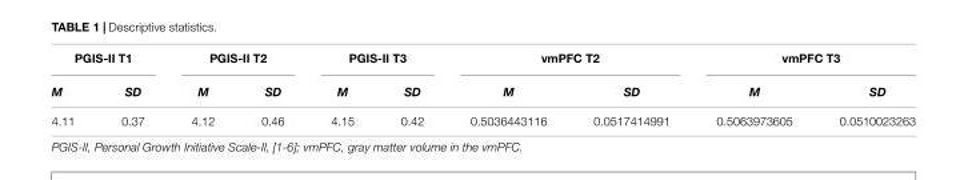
<table><thead><tr><td colspan="2">PGIS-II T1</td><td colspan="2">PGIS-II T2</td><td colspan="2">PGIS-II T3</td><td colspan="2">vmPFC T2</td><td colspan="2">vmPFC T3</td></tr><tr><td>M</td><td>SD</td><td>M</td><td>SD</td><td>M</td><td>SD</td><td>M</td><td>SD</td><td>M</td><td>SD</td></tr></thead><tbody><tr><td>4.11</td><td>0.37</td><td>4.12</td><td>0.46</td><td>4.15</td><td>0.42</td><td>0.5036443116</td><td>0.0517414991</td><td>0.5063973605</td><td>0.0510023263</td></tr></tbody></table>